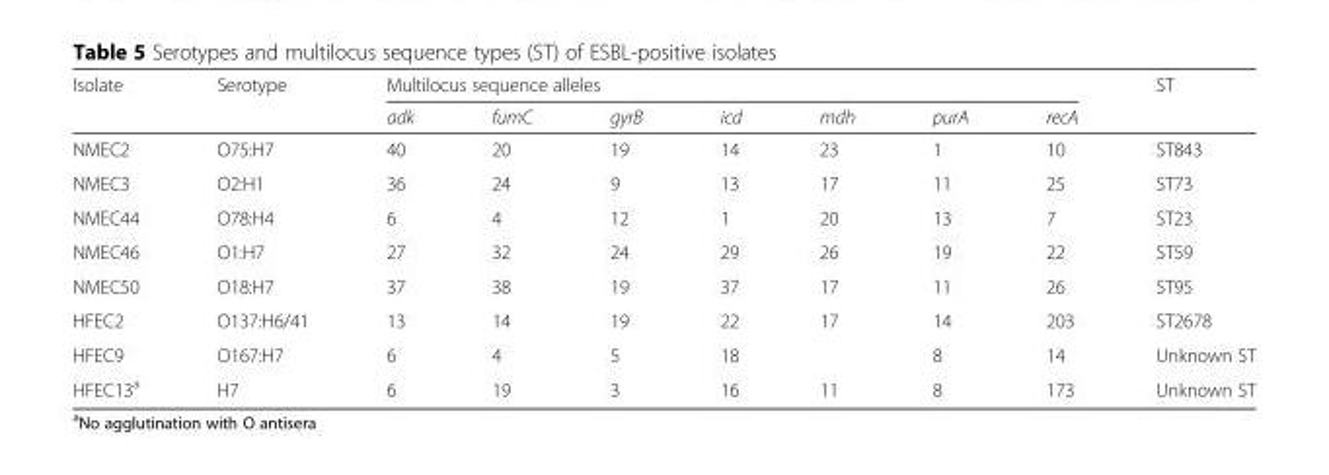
<table><thead><tr><td rowspan="2">Isolate</td><td rowspan="2">Serotype</td><td colspan="7">Multilocus sequence alleles</td><td rowspan="2">ST</td></tr><tr><td>adk</td><td>fumC</td><td>gyrB</td><td>icd</td><td>mdh</td><td>purA</td><td>recA</td></tr></thead><tbody><tr><td>NMEC2</td><td>O75:H7</td><td>40</td><td>20</td><td>19</td><td>14</td><td>23</td><td>1</td><td>10</td><td>ST843</td></tr><tr><td>NMEC3</td><td>O2:H1</td><td>36</td><td>24</td><td>9</td><td>13</td><td>17</td><td>11</td><td>25</td><td>ST73</td></tr><tr><td>NMEC44</td><td>O78:H4</td><td>6</td><td>4</td><td>12</td><td>1</td><td>20</td><td>13</td><td>7</td><td>ST23</td></tr><tr><td>NMEC46</td><td>O1:H7</td><td>27</td><td>32</td><td>24</td><td>29</td><td>26</td><td>19</td><td>22</td><td>ST59</td></tr><tr><td>NMEC50</td><td>O18:H7</td><td>37</td><td>38</td><td>19</td><td>37</td><td>17</td><td>11</td><td>26</td><td>ST95</td></tr><tr><td>HFEC2</td><td>O137:H6/41</td><td>13</td><td>14</td><td>19</td><td>22</td><td>17</td><td>14</td><td>203</td><td>ST2678</td></tr><tr><td>HFEC9</td><td>O167:H7</td><td>6</td><td>4</td><td>5</td><td>18</td><td></td><td>8</td><td>14</td><td>Unknown ST</td></tr><tr><td>HFEC13<sup>a</sup></td><td>H7</td><td>6</td><td>19</td><td>3</td><td>16</td><td>11</td><td>8</td><td>173</td><td>Unknown ST</td></tr></tbody></table>